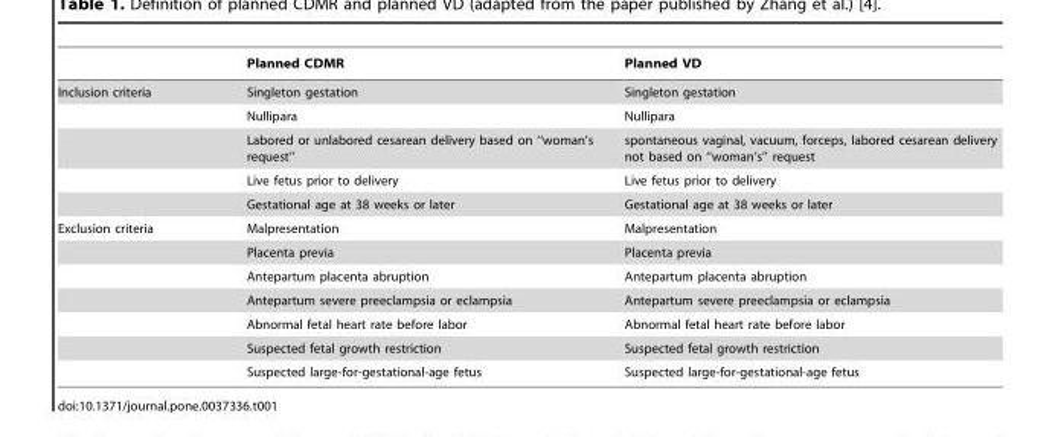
<table><thead><tr><td></td><td>Planned CDMR</td><td>Planned VD</td></tr></thead><tbody><tr><td rowspan="5">Inclusion criteria</td><td>Singleton gestation</td><td>Singleton gestation</td></tr><tr><td>Nullipara</td><td>Nullipara</td></tr><tr><td>Labored or unlabored cesarean delivery based on ‘‘woman’s request’’</td><td>spontaneous vaginal, vacuum, forceps, labored cesarean delivery not based on ‘‘woman’s’’ request</td></tr><tr><td>Live fetus prior to delivery</td><td>Live fetus prior to delivery</td></tr><tr><td>Gestational age at 38 weeks or later</td><td>Gestational age at 38 weeks or later</td></tr><tr><td rowspan="7">Exclusion criteria</td><td>Malpresentation</td><td>Malpresentation</td></tr><tr><td>Placenta previa</td><td>Placenta previa</td></tr><tr><td>Antepartum placenta abruption</td><td>Antepartum placenta abruption</td></tr><tr><td>Antepartum severe preeclampsia or eclampsia</td><td>Antepartum severe preeclampsia or eclampsia</td></tr><tr><td>Abnormal fetal heart rate before labor</td><td>Abnormal fetal heart rate before labor</td></tr><tr><td>Suspected fetal growth restriction</td><td>Suspected fetal growth restriction</td></tr><tr><td>Suspected large-for-gestational-age fetus</td><td>Suspected large-for-gestational-age fetus</td></tr></tbody></table>